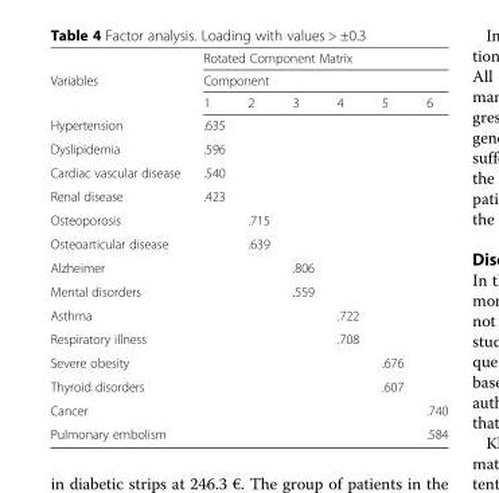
<table><thead><tr><td rowspan="3">Variables</td><td rowspan="2" colspan="6">Rotated Component Matrix Component</td></tr><tr></tr><tr><td>1</td><td>2</td><td>3</td><td>4</td><td>5</td><td>6</td></tr></thead><tbody><tr><td>Hypertension</td><td>.635</td><td></td><td></td><td></td><td></td><td></td></tr><tr><td>Dyslipidemia</td><td>.596</td><td></td><td></td><td></td><td></td><td></td></tr><tr><td>Cardiac vascular disease</td><td>.540</td><td></td><td></td><td></td><td></td><td></td></tr><tr><td>Renal disease</td><td>.423</td><td></td><td></td><td></td><td></td><td></td></tr><tr><td>Osteoporosis</td><td></td><td>.715</td><td></td><td></td><td></td><td></td></tr><tr><td>Osteoarticular disease</td><td></td><td>.639</td><td></td><td></td><td></td><td></td></tr><tr><td>Alzheimer</td><td></td><td></td><td>.806</td><td></td><td></td><td></td></tr><tr><td>Mental disorders</td><td></td><td></td><td>.559</td><td></td><td></td><td></td></tr><tr><td>Asthma</td><td></td><td></td><td></td><td>.722</td><td></td><td></td></tr><tr><td>Respiratory illness</td><td></td><td></td><td></td><td>.708</td><td></td><td></td></tr><tr><td>Severe obesity</td><td></td><td></td><td></td><td></td><td>.676</td><td></td></tr><tr><td>Thyroid disorders</td><td></td><td></td><td></td><td></td><td>.607</td><td></td></tr><tr><td>Cancer</td><td></td><td></td><td></td><td></td><td></td><td>.740</td></tr><tr><td>Pulmonary embolism</td><td></td><td></td><td></td><td></td><td></td><td>.584</td></tr></tbody></table>